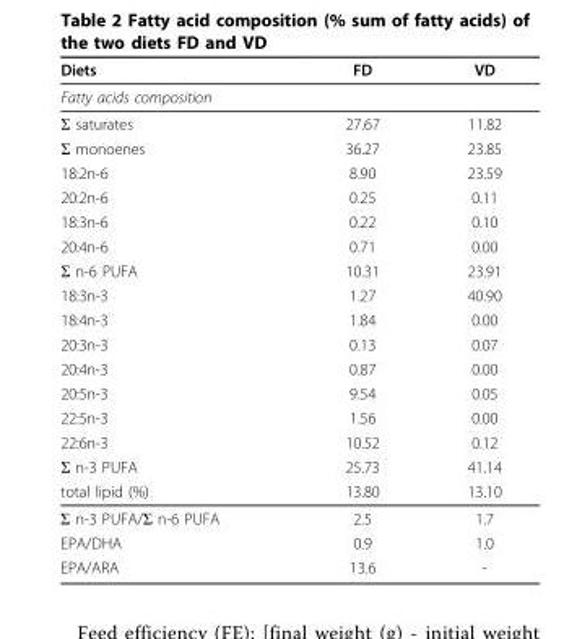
<table><thead><tr><td>Diets</td><td>FD</td><td>VD</td></tr></thead><tbody><tr><td colspan="3">Fatty acids composition</td></tr><tr><td>Σ saturates</td><td>27.67</td><td>11.82</td></tr><tr><td>Σ monoenes</td><td>36.27</td><td>23.85</td></tr><tr><td>18:2n-6</td><td>8.90</td><td>23.59</td></tr><tr><td>20:2n-6</td><td>0.25</td><td>0.11</td></tr><tr><td>18:3n-6</td><td>0.22</td><td>0.10</td></tr><tr><td>20:4n-6</td><td>0.71</td><td>0.00</td></tr><tr><td>Σ n-6 PUFA</td><td>10.31</td><td>23.91</td></tr><tr><td>18:3n-3</td><td>1.27</td><td>40.90</td></tr><tr><td>18:4n-3</td><td>1.84</td><td>0.00</td></tr><tr><td>20:3n-3</td><td>0.13</td><td>0.07</td></tr><tr><td>20:4n-3</td><td>0.87</td><td>0.00</td></tr><tr><td>20:5n-3</td><td>9.54</td><td>0.05</td></tr><tr><td>22:5n-3</td><td>1.56</td><td>0.00</td></tr><tr><td>22:6n-3</td><td>10.52</td><td>0.12</td></tr><tr><td>Σ n-3 PUFA</td><td>25.73</td><td>41.14</td></tr><tr><td>total lipid (%)</td><td>13.80</td><td>13.10</td></tr><tr><td>Σ n-3 PUFA/Σ n-6 PUFA</td><td>2.5</td><td>1.7</td></tr><tr><td>EPA/DHA</td><td>0.9</td><td>1.0</td></tr><tr><td>EPA/ARA</td><td>13.6</td><td>-</td></tr></tbody></table>